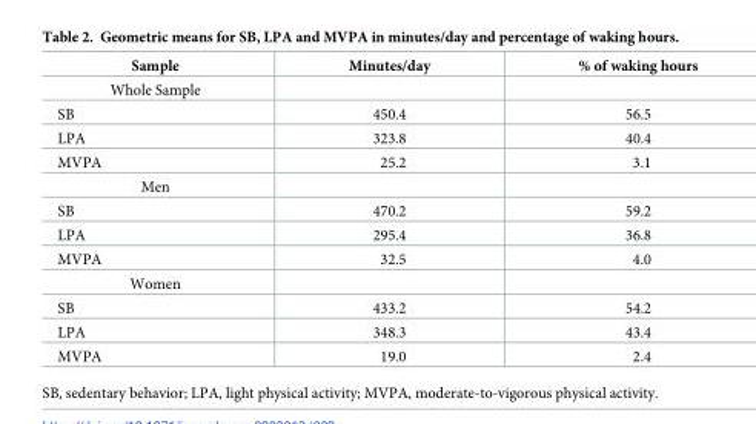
<table><thead><tr><td>Sample</td><td>Minutes/day</td><td>% of waking hours</td></tr></thead><tbody><tr><td colspan="3">Whole Sample</td></tr><tr><td>SB</td><td>450.4</td><td>56.5</td></tr><tr><td>LPA</td><td>323.8</td><td>40.4</td></tr><tr><td>MVPA</td><td>25.2</td><td>3.1</td></tr><tr><td colspan="3">Men</td></tr><tr><td>SB</td><td>470.2</td><td>59.2</td></tr><tr><td>LPA</td><td>295.4</td><td>36.8</td></tr><tr><td>MVPA</td><td>32.5</td><td>4.0</td></tr><tr><td colspan="3">Women</td></tr><tr><td>SB</td><td>433.2</td><td>54.2</td></tr><tr><td>LPA</td><td>348.3</td><td>43.4</td></tr><tr><td>MVPA</td><td>19.0</td><td>2.4</td></tr></tbody></table>